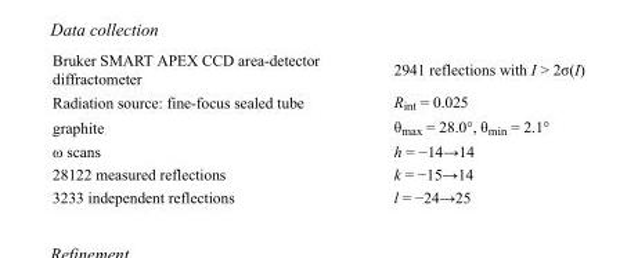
<table><tbody><tr><td>Bruker SMART APEX CCD area-detector diffractometer</td><td>2941 reflections with I &gt; 2σ(I)</td></tr><tr><td>Radiation source: fine-focus sealed tube</td><td>R<sub>int</sub> = 0.025</td></tr><tr><td>graphite</td><td>θ<sub>max</sub> = 28.0°, θ<sub>min</sub> = 2.1°</td></tr><tr><td>ω scans</td><td>h = −14→14</td></tr><tr><td>28122 measured reflections</td><td>k = −15→14</td></tr><tr><td>3233 independent reflections</td><td>l = −24→25</td></tr></tbody></table>